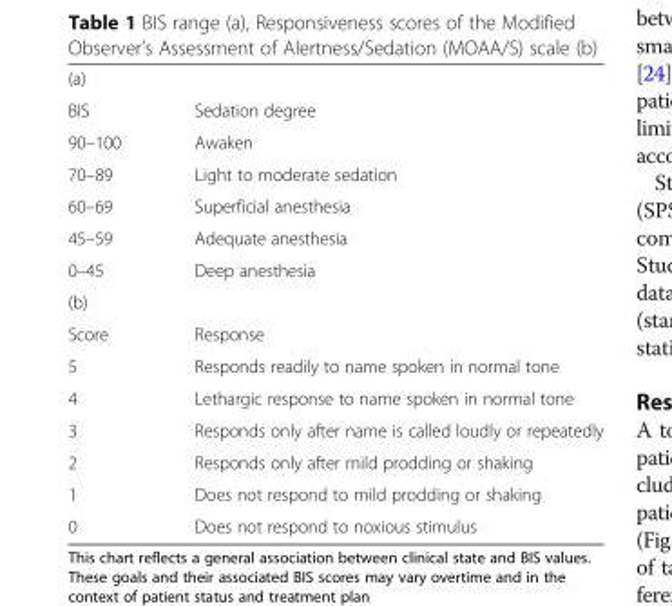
<table><tbody><tr><td colspan="2">(a)</td></tr><tr><td>BIS</td><td>Sedation degree</td></tr><tr><td>90–100</td><td>Awaken</td></tr><tr><td>70–89</td><td>Light to moderate sedation</td></tr><tr><td>60–69</td><td>Superficial anesthesia</td></tr><tr><td>45–59</td><td>Adequate anesthesia</td></tr><tr><td>0–45</td><td>Deep anesthesia</td></tr><tr><td colspan="2">(b)</td></tr><tr><td>Score</td><td>Response</td></tr><tr><td>5</td><td>Responds readily to name spoken in normal tone</td></tr><tr><td>4</td><td>Lethargic response to name spoken in normal tone</td></tr><tr><td>3</td><td>Responds only after name is called loudly or repeatedly</td></tr><tr><td>2</td><td>Responds only after mild prodding or shaking</td></tr><tr><td>1</td><td>Does not respond to mild prodding or shaking</td></tr><tr><td>0</td><td>Does not respond to noxious stimulus</td></tr></tbody></table>